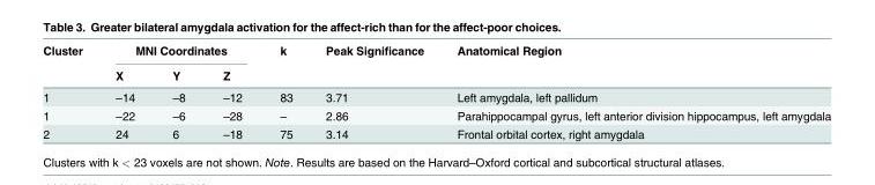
<table><thead><tr><td rowspan="2">Cluster</td><td colspan="3">MNI Coordinates</td><td rowspan="2">k</td><td rowspan="2">Peak Significance</td><td rowspan="2">Anatomical Region</td></tr><tr><td>X</td><td>Y</td><td>Z</td></tr></thead><tbody><tr><td>1</td><td>–14</td><td>–8</td><td>–12</td><td>83</td><td>3.71</td><td>Left amygdala, left pallidum</td></tr><tr><td>1</td><td>–22</td><td>–6</td><td>–28</td><td>–</td><td>2.86</td><td>Parahippocampal gyrus, left anterior division hippocampus, left amygdala</td></tr><tr><td>2</td><td>24</td><td>6</td><td>–18</td><td>75</td><td>3.14</td><td>Frontal orbital cortex, right amygdala</td></tr></tbody></table>